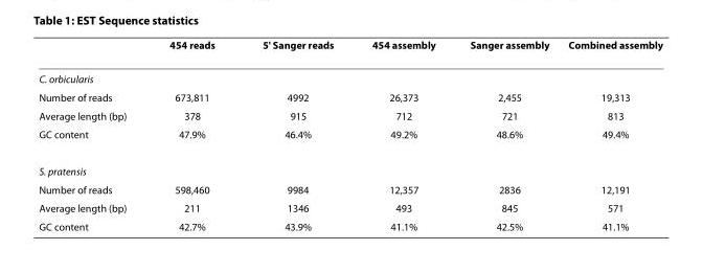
<table><thead><tr><td></td><td>454 reads</td><td>5&#x27; Sanger reads</td><td>454 assembly</td><td>Sanger assembly</td><td>Combined assembly</td></tr></thead><tbody><tr><td colspan="6">C. orbicularis</td></tr><tr><td>Number of reads</td><td>673,811</td><td>4992</td><td>26,373</td><td>2,455</td><td>19,313</td></tr><tr><td>Average length (bp)</td><td>378</td><td>915</td><td>712</td><td>721</td><td>813</td></tr><tr><td>GC content</td><td>47.9%</td><td>46.4%</td><td>49.2%</td><td>48.6%</td><td>49.4%</td></tr><tr><td colspan="6">S. pratensis</td></tr><tr><td>Number of reads</td><td>598,460</td><td>9984</td><td>12,357</td><td>2836</td><td>12,191</td></tr><tr><td>Average length (bp)</td><td>211</td><td>1346</td><td>493</td><td>845</td><td>571</td></tr><tr><td>GC content</td><td>42.7%</td><td>43.9%</td><td>41.1%</td><td>42.5%</td><td>41.1%</td></tr></tbody></table>